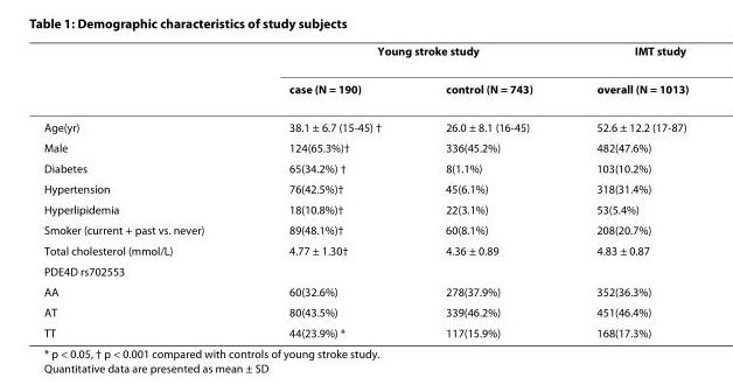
<table><thead><tr><td rowspan="2"></td><td colspan="2">Young stroke study</td><td rowspan="2">IMT study overall (N = 1013)</td></tr><tr><td>case (N = 190)</td><td>control (N = 743)</td></tr></thead><tbody><tr><td>Age(yr)</td><td>38.1 ± 6.7 (15-45) †</td><td>26.0 ± 8.1 (16-45)</td><td>52.6 ± 12.2 (17-87)</td></tr><tr><td>Male</td><td>124(65.3%)†</td><td>336(45.2%)</td><td>482(47.6%)</td></tr><tr><td>Diabetes</td><td>65(34.2%) †</td><td>8(1.1%)</td><td>103(10.2%)</td></tr><tr><td>Hypertension</td><td>76(42.5%)†</td><td>45(6.1%)</td><td>318(31.4%)</td></tr><tr><td>Hyperlipidemia</td><td>18(10.8%)†</td><td>22(3.1%)</td><td>53(5.4%)</td></tr><tr><td>Smoker (current + past vs. never)</td><td>89(48.1%)†</td><td>60(8.1%)</td><td>208(20.7%)</td></tr><tr><td>Total cholesterol (mmol/L)</td><td>4.77 ± 1.30†</td><td>4.36 ± 0.89</td><td>4.83 ± 0.87</td></tr><tr><td colspan="4">PDE4D rs702553</td></tr><tr><td>AA</td><td>60(32.6%)</td><td>278(37.9%)</td><td>352(36.3%)</td></tr><tr><td>AT</td><td>80(43.5%)</td><td>339(46.2%)</td><td>451(46.4%)</td></tr><tr><td>TT</td><td>44(23.9%) *</td><td>117(15.9%)</td><td>168(17.3%)</td></tr></tbody></table>